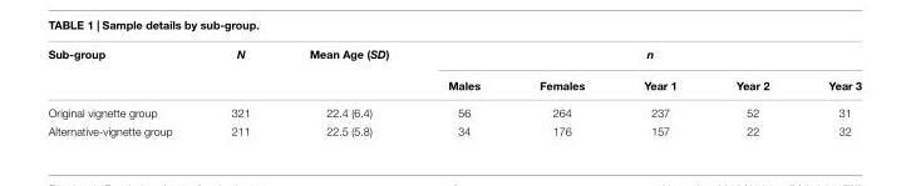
<table><thead><tr><td rowspan="2">Sub-group</td><td rowspan="2">N</td><td rowspan="2">Mean Age (SD)</td><td colspan="5">n</td></tr><tr><td>Males</td><td>Females</td><td>Year 1</td><td>Year 2</td><td>Year 3</td></tr></thead><tbody><tr><td>Original vignette group</td><td>321</td><td>22.4 (6.4)</td><td>56</td><td>264</td><td>237</td><td>52</td><td>31</td></tr><tr><td>Alternative-vignette group</td><td>211</td><td>22.5 (5.8)</td><td>34</td><td>176</td><td>157</td><td>22</td><td>32</td></tr></tbody></table>